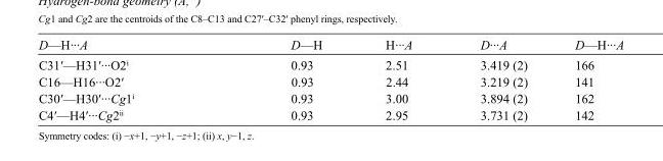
<table><tbody><tr><td>D—H···A</td><td>D—H</td><td>H···A</td><td>D···A</td><td>D—H···A</td></tr><tr><td>C31′—H31′···O2<sup>i</sup></td><td>0.93</td><td>2.51</td><td>3.419 (2)</td><td>166</td></tr><tr><td>C16—H16···O2′</td><td>0.93</td><td>2.44</td><td>3.219 (2)</td><td>141</td></tr><tr><td>C30′—H30′···Cg1<sup>i</sup></td><td>0.93</td><td>3.00</td><td>3.894 (2)</td><td>162</td></tr><tr><td>C4′—H4′···Cg2<sup>ii</sup></td><td>0.93</td><td>2.95</td><td>3.731 (2)</td><td>142</td></tr></tbody></table>